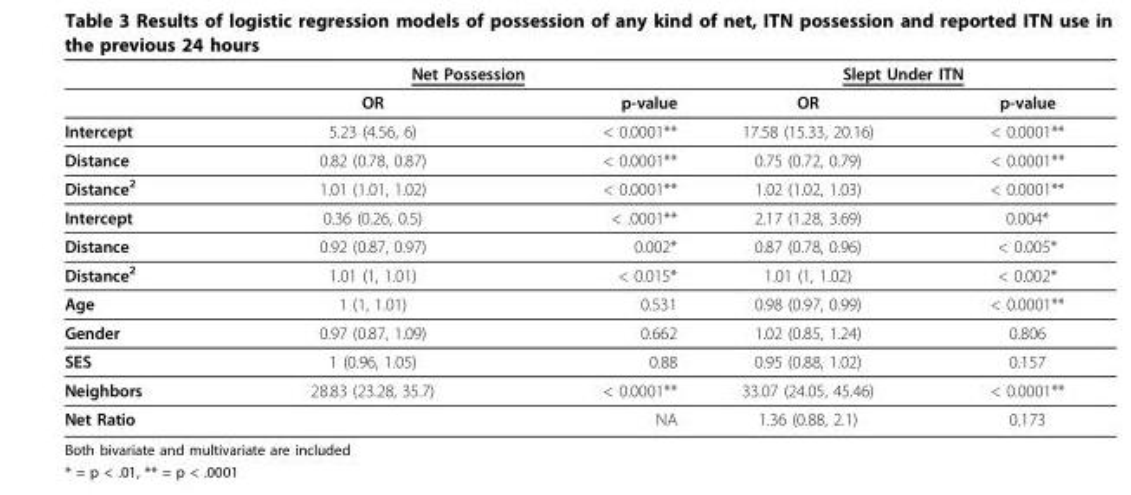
<table><thead><tr><td rowspan="2"></td><td colspan="2">Net Possession</td><td colspan="2">Slept Under ITN</td></tr><tr><td>OR</td><td>p-value</td><td>OR</td><td>p-value</td></tr></thead><tbody><tr><td>Intercept</td><td>5.23 (4.56, 6)</td><td>&lt; 0.0001**</td><td>17.58 (15.33, 20.16)</td><td>&lt; 0.0001**</td></tr><tr><td>Distance</td><td>0.82 (0.78, 0.87)</td><td>&lt; 0.0001**</td><td>0.75 (0.72, 0.79)</td><td>&lt; 0.0001**</td></tr><tr><td>Distance<sup>2</sup></td><td>1.01 (1.01, 1.02)</td><td>&lt; 0.0001**</td><td>1.02 (1.02, 1.03)</td><td>&lt; 0.0001**</td></tr><tr><td>Intercept</td><td>0.36 (0.26, 0.5)</td><td>&lt; .0001**</td><td>2.17 (1.28, 3.69)</td><td>0.004*</td></tr><tr><td>Distance</td><td>0.92 (0.87, 0.97)</td><td>0.002*</td><td>0.87 (0.78, 0.96)</td><td>&lt; 0.005*</td></tr><tr><td>Distance<sup>2</sup></td><td>1.01 (1, 1.01)</td><td>&lt; 0.015*</td><td>1.01 (1, 1.02)</td><td>&lt; 0.002*</td></tr><tr><td>Age</td><td>1 (1, 1.01)</td><td>0.531</td><td>0.98 (0.97, 0.99)</td><td>&lt; 0.0001**</td></tr><tr><td>Gender</td><td>0.97 (0.87, 1.09)</td><td>0.662</td><td>1.02 (0.85, 1.24)</td><td>0.806</td></tr><tr><td>SES</td><td>1 (0.96, 1.05)</td><td>0.88</td><td>0.95 (0.88, 1.02)</td><td>0.157</td></tr><tr><td>Neighbors</td><td>28.83 (23.28, 35.7)</td><td>&lt; 0.0001**</td><td>33.07 (24.05, 45.46)</td><td>&lt; 0.0001**</td></tr><tr><td>Net Ratio</td><td></td><td>NA</td><td>1.36 (0.88, 2.1)</td><td>0.173</td></tr></tbody></table>